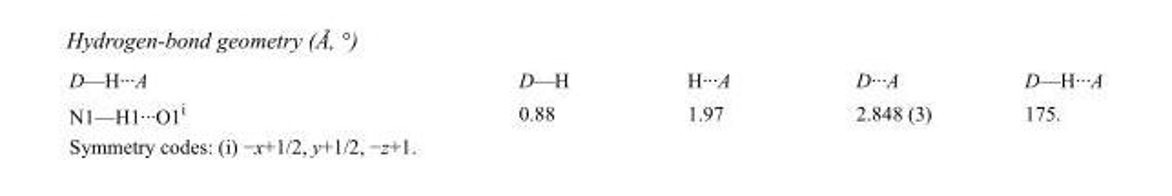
<table><tbody><tr><td>D—H···A</td><td>D—H</td><td>H···A</td><td>D···A</td><td>D—H···A</td></tr><tr><td>N1—H1···O1<sup>i</sup></td><td>0.88</td><td>1.97</td><td>2.848 (3)</td><td>175.</td></tr></tbody></table>